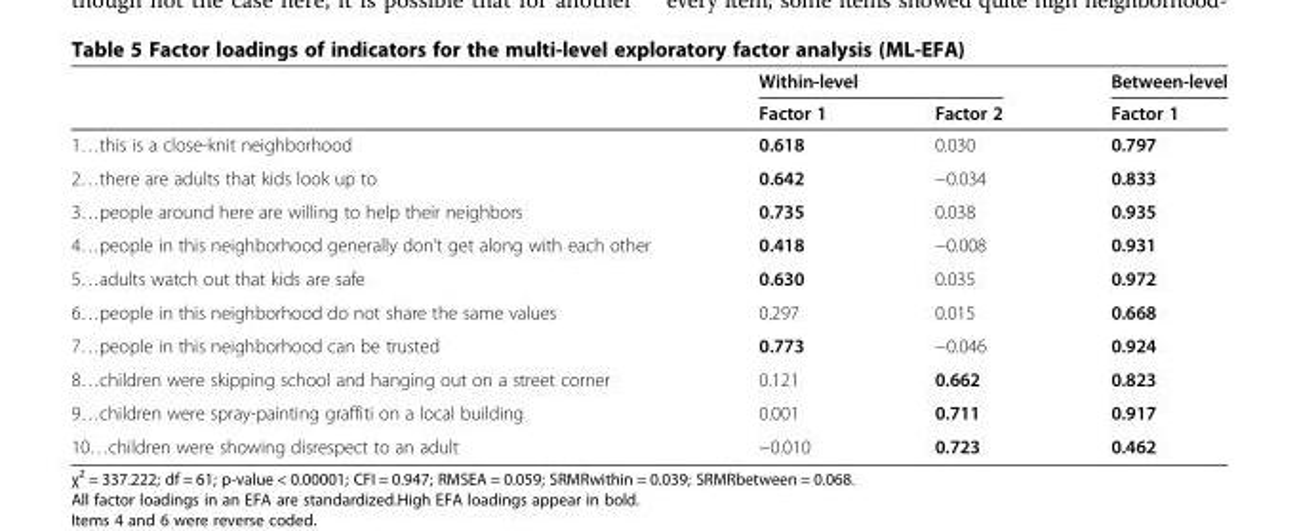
<table><thead><tr><td rowspan="2"></td><td colspan="2">Within-level</td><td rowspan="2">Between-level Factor 1</td></tr><tr><td>Factor 1</td><td>Factor 2</td></tr></thead><tbody><tr><td>1…this is a close-knit neighborhood</td><td>0.618</td><td>0.030</td><td>0.797</td></tr><tr><td>2…there are adults that kids look up to</td><td>0.642</td><td>−0.034</td><td>0.833</td></tr><tr><td>3…people around here are willing to help their neighbors</td><td>0.735</td><td>0.038</td><td>0.935</td></tr><tr><td>4…people in this neighborhood generally don’t get along with each other</td><td>0.418</td><td>−0.008</td><td>0.931</td></tr><tr><td>5…adults watch out that kids are safe</td><td>0.630</td><td>0.035</td><td>0.972</td></tr><tr><td>6…people in this neighborhood do not share the same values</td><td>0.297</td><td>0.015</td><td>0.668</td></tr><tr><td>7…people in this neighborhood can be trusted</td><td>0.773</td><td>−0.046</td><td>0.924</td></tr><tr><td>8…children were skipping school and hanging out on a street corner</td><td>0.121</td><td>0.662</td><td>0.823</td></tr><tr><td>9…children were spray-painting graffiti on a local building</td><td>0.001</td><td>0.711</td><td>0.917</td></tr><tr><td>10…children were showing disrespect to an adult</td><td>−0.010</td><td>0.723</td><td>0.462</td></tr></tbody></table>